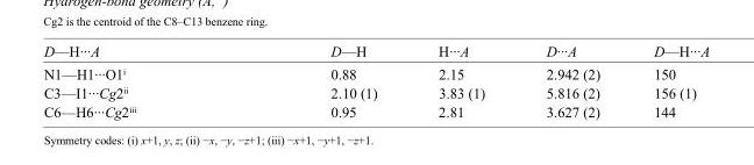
<table><tbody><tr><td>D—H···A</td><td>D—H</td><td>H···A</td><td>D···A</td><td>D—H···A</td></tr><tr><td>N1—H1···O1<sup>i</sup></td><td>0.88</td><td>2.15</td><td>2.942 (2)</td><td>150</td></tr><tr><td>C3—I1···Cg2<sup>ii</sup></td><td>2.10 (1)</td><td>3.83 (1)</td><td>5.816 (2)</td><td>156 (1)</td></tr><tr><td>C6—H6···Cg2<sup>iii</sup></td><td>0.95</td><td>2.81</td><td>3.627 (2)</td><td>144</td></tr></tbody></table>